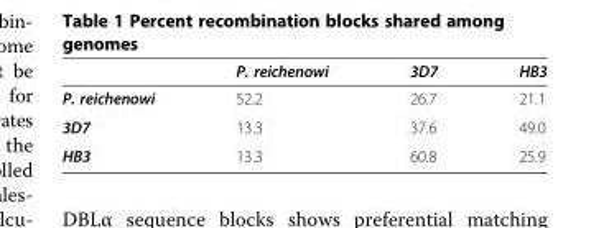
<table><thead><tr><td></td><td>P. reichenowi</td><td>3D7</td><td>HB3</td></tr></thead><tbody><tr><td>P. reichenowi</td><td>52.2</td><td>26.7</td><td>21.1</td></tr><tr><td>3D7</td><td>13.3</td><td>37.6</td><td>49.0</td></tr><tr><td>HB3</td><td>13.3</td><td>60.8</td><td>25.9</td></tr></tbody></table>